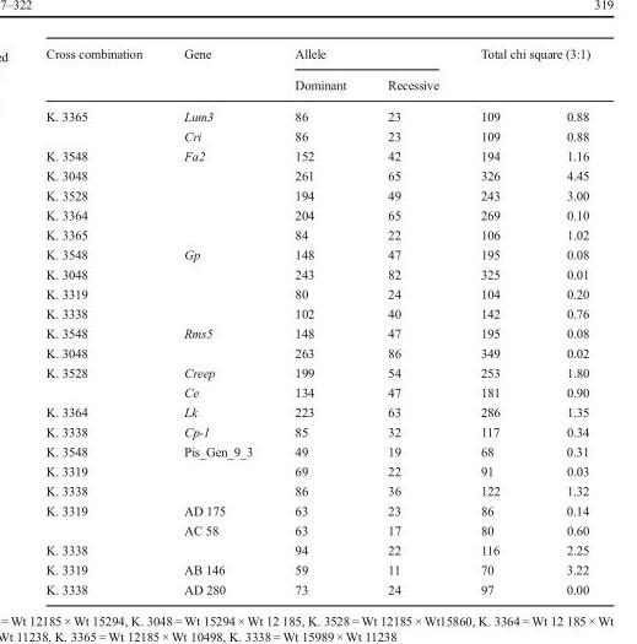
<table><thead><tr><td rowspan="3">Cross combination K. 3365</td><td rowspan="3">Gene Lum3</td><td colspan="2">Allele</td><td rowspan="2" colspan="2">Total chi square (3:1)</td></tr><tr><td rowspan="2">Dominant 86</td><td rowspan="2">Recessive 23</td></tr><tr><td>109</td><td>0.88</td></tr></thead><tbody><tr><td></td><td>Cri</td><td>86</td><td>23</td><td>109</td><td>0.88</td></tr><tr><td>K. 3548</td><td>Fa2</td><td>152</td><td>42</td><td>194</td><td>1.16</td></tr><tr><td>K. 3048</td><td></td><td>261</td><td>65</td><td>326</td><td>4.45</td></tr><tr><td>K. 3528</td><td></td><td>194</td><td>49</td><td>243</td><td>3.00</td></tr><tr><td>K. 3364</td><td></td><td>204</td><td>65</td><td>269</td><td>0.10</td></tr><tr><td>K. 3365</td><td></td><td>84</td><td>22</td><td>106</td><td>1.02</td></tr><tr><td>K. 3548</td><td>Gp</td><td>148</td><td>47</td><td>195</td><td>0.08</td></tr><tr><td>K. 3048</td><td></td><td>243</td><td>82</td><td>325</td><td>0.01</td></tr><tr><td>K. 3319</td><td></td><td>80</td><td>24</td><td>104</td><td>0.20</td></tr><tr><td>K. 3338</td><td></td><td>102</td><td>40</td><td>142</td><td>0.76</td></tr><tr><td>K. 3548</td><td>Rms5</td><td>148</td><td>47</td><td>195</td><td>0.08</td></tr><tr><td>K. 3048</td><td></td><td>263</td><td>86</td><td>349</td><td>0.02</td></tr><tr><td rowspan="2">K. 3528</td><td>Creep</td><td>199</td><td>54</td><td>253</td><td>1.80</td></tr><tr><td>Ce</td><td>134</td><td>47</td><td>181</td><td>0.90</td></tr><tr><td>K. 3364</td><td>Lk</td><td>223</td><td>63</td><td>286</td><td>1.35</td></tr><tr><td>K. 3338</td><td>Cp-1</td><td>85</td><td>32</td><td>117</td><td>0.34</td></tr><tr><td>K. 3548</td><td>Pis_Gen_9_3</td><td>49</td><td>19</td><td>68</td><td>0.31</td></tr><tr><td>K. 3319</td><td></td><td>69</td><td>22</td><td>91</td><td>0.03</td></tr><tr><td>K. 3338</td><td></td><td>86</td><td>36</td><td>122</td><td>1.32</td></tr><tr><td rowspan="2">K. 3319</td><td>AD 175</td><td>63</td><td>23</td><td>86</td><td>0.14</td></tr><tr><td>AC 58</td><td>63</td><td>17</td><td>80</td><td>0.60</td></tr><tr><td>K. 3338</td><td></td><td>94</td><td>22</td><td>116</td><td>2.25</td></tr><tr><td>K. 3319</td><td>AB 146</td><td>59</td><td>11</td><td>70</td><td>3.22</td></tr><tr><td>K. 3338</td><td>AD 280</td><td>73</td><td>24</td><td>97</td><td>0.00</td></tr></tbody></table>